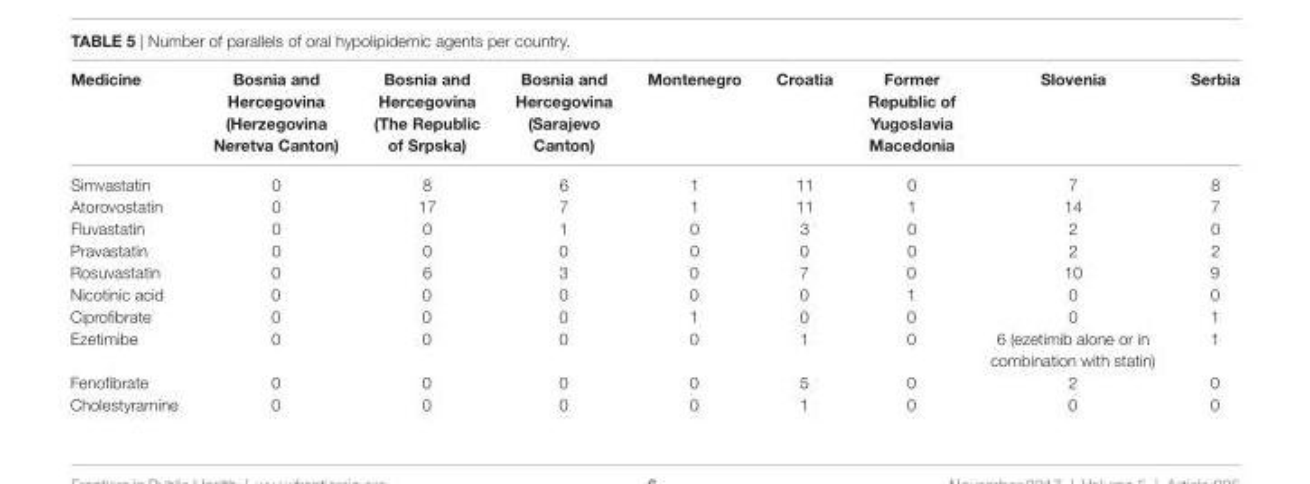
<table><thead><tr><td>Medicine</td><td>Bosnia and hercegovina (herzegovina neretva canton)</td><td>Bosnia and hercegovina (The republic of srpska)</td><td>Bosnia and hercegovina (sarajevo canton)</td><td>Montenegro</td><td>croatia</td><td>Former republic of Yugoslavia Macedonia</td><td>slovenia</td><td>serbia</td></tr></thead><tbody><tr><td>Simvastatin</td><td>0</td><td>8</td><td>6</td><td>1</td><td>11</td><td>0</td><td>7</td><td>8</td></tr><tr><td>Atorovostatin</td><td>0</td><td>17</td><td>7</td><td>1</td><td>11</td><td>1</td><td>14</td><td>7</td></tr><tr><td>Fluvastatin</td><td>0</td><td>0</td><td>1</td><td>0</td><td>3</td><td>0</td><td>2</td><td>0</td></tr><tr><td>Pravastatin</td><td>0</td><td>0</td><td>0</td><td>0</td><td>0</td><td>0</td><td>2</td><td>2</td></tr><tr><td>Rosuvastatin</td><td>0</td><td>6</td><td>3</td><td>0</td><td>7</td><td>0</td><td>10</td><td>9</td></tr><tr><td>Nicotinic acid</td><td>0</td><td>0</td><td>0</td><td>0</td><td>0</td><td>1</td><td>0</td><td>0</td></tr><tr><td>Ciprofibrate</td><td>0</td><td>0</td><td>0</td><td>1</td><td>0</td><td>0</td><td>0</td><td>1</td></tr><tr><td>Ezetimibe</td><td>0</td><td>0</td><td>0</td><td>0</td><td>1</td><td>0</td><td>6 (ezetimib alone or in combination with statin)</td><td>1</td></tr><tr><td>Fenofibrate</td><td>0</td><td>0</td><td>0</td><td>0</td><td>5</td><td>0</td><td>2</td><td>0</td></tr><tr><td>Cholestyramine</td><td>0</td><td>0</td><td>0</td><td>0</td><td>1</td><td>0</td><td>0</td><td>0</td></tr></tbody></table>